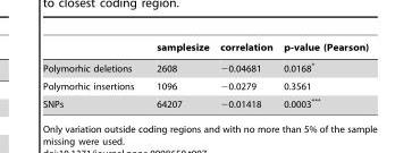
<table><thead><tr><td></td><td>samplesize</td><td>correlation</td><td>p-value (Pearson)</td></tr></thead><tbody><tr><td>Polymorhic deletions</td><td>2608</td><td>−0.04681</td><td>0.0168*</td></tr><tr><td>Polymorhic insertions</td><td>1096</td><td>−0.0279</td><td>0.3561</td></tr><tr><td>SNPs</td><td>64207</td><td>−0.01418</td><td>0.0003***</td></tr></tbody></table>